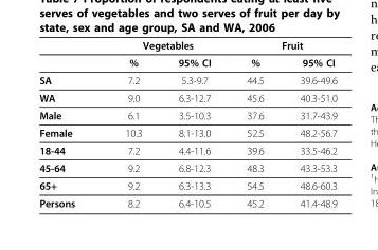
<table><thead><tr><td rowspan="2"></td><td colspan="2">Vegetables</td><td colspan="2">Fruit</td></tr><tr><td>%</td><td>95% CI</td><td>%</td><td>95% CI</td></tr></thead><tbody><tr><td>SA</td><td>7.2</td><td>5.3-9.7</td><td>44.5</td><td>39.6-49.6</td></tr><tr><td>WA</td><td>9.0</td><td>6.3-12.7</td><td>45.6</td><td>40.3-51.0</td></tr><tr><td>Male</td><td>6.1</td><td>3.5-10.3</td><td>37.6</td><td>31.7-43.9</td></tr><tr><td>Female</td><td>10.3</td><td>8.1-13.0</td><td>52.5</td><td>48.2-56.7</td></tr><tr><td>18-44</td><td>7.2</td><td>4.4-11.6</td><td>39.6</td><td>33.5-46.2</td></tr><tr><td>45-64</td><td>9.2</td><td>6.8-12.3</td><td>48.3</td><td>43.3-53.3</td></tr><tr><td>65+</td><td>9.2</td><td>6.3-13.3</td><td>54.5</td><td>48.6-60.3</td></tr><tr><td>Persons</td><td>8.2</td><td>6.4-10.5</td><td>45.2</td><td>41.4-48.9</td></tr></tbody></table>